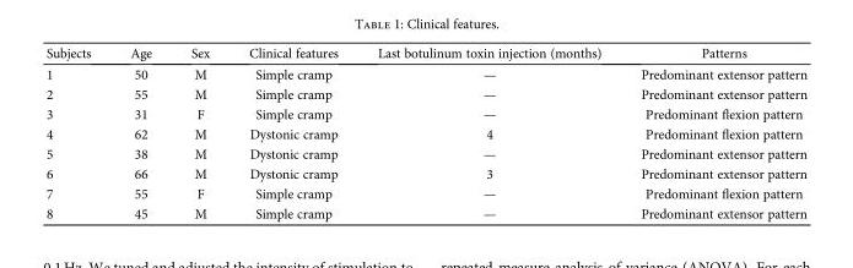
<table><thead><tr><td>Subjects</td><td>Age</td><td>Sex</td><td>Clinical features</td><td>Last botulinum toxin injection (months)</td><td>Patterns</td></tr></thead><tbody><tr><td>1</td><td>50</td><td>M</td><td>Simple cramp</td><td>—</td><td>Predominant extensor pattern</td></tr><tr><td>2</td><td>55</td><td>M</td><td>Simple cramp</td><td>—</td><td>Predominant extensor pattern</td></tr><tr><td>3</td><td>31</td><td>F</td><td>Simple cramp</td><td>—</td><td>Predominant flexion pattern</td></tr><tr><td>4</td><td>62</td><td>M</td><td>Dystonic cramp</td><td>4</td><td>Predominant flexion pattern</td></tr><tr><td>5</td><td>38</td><td>M</td><td>Dystonic cramp</td><td>—</td><td>Predominant extensor pattern</td></tr><tr><td>6</td><td>66</td><td>M</td><td>Dystonic cramp</td><td>3</td><td>Predominant extensor pattern</td></tr><tr><td>7</td><td>55</td><td>F</td><td>Simple cramp</td><td>—</td><td>Predominant flexion pattern</td></tr><tr><td>8</td><td>45</td><td>M</td><td>Simple cramp</td><td>—</td><td>Predominant extensor pattern</td></tr></tbody></table>